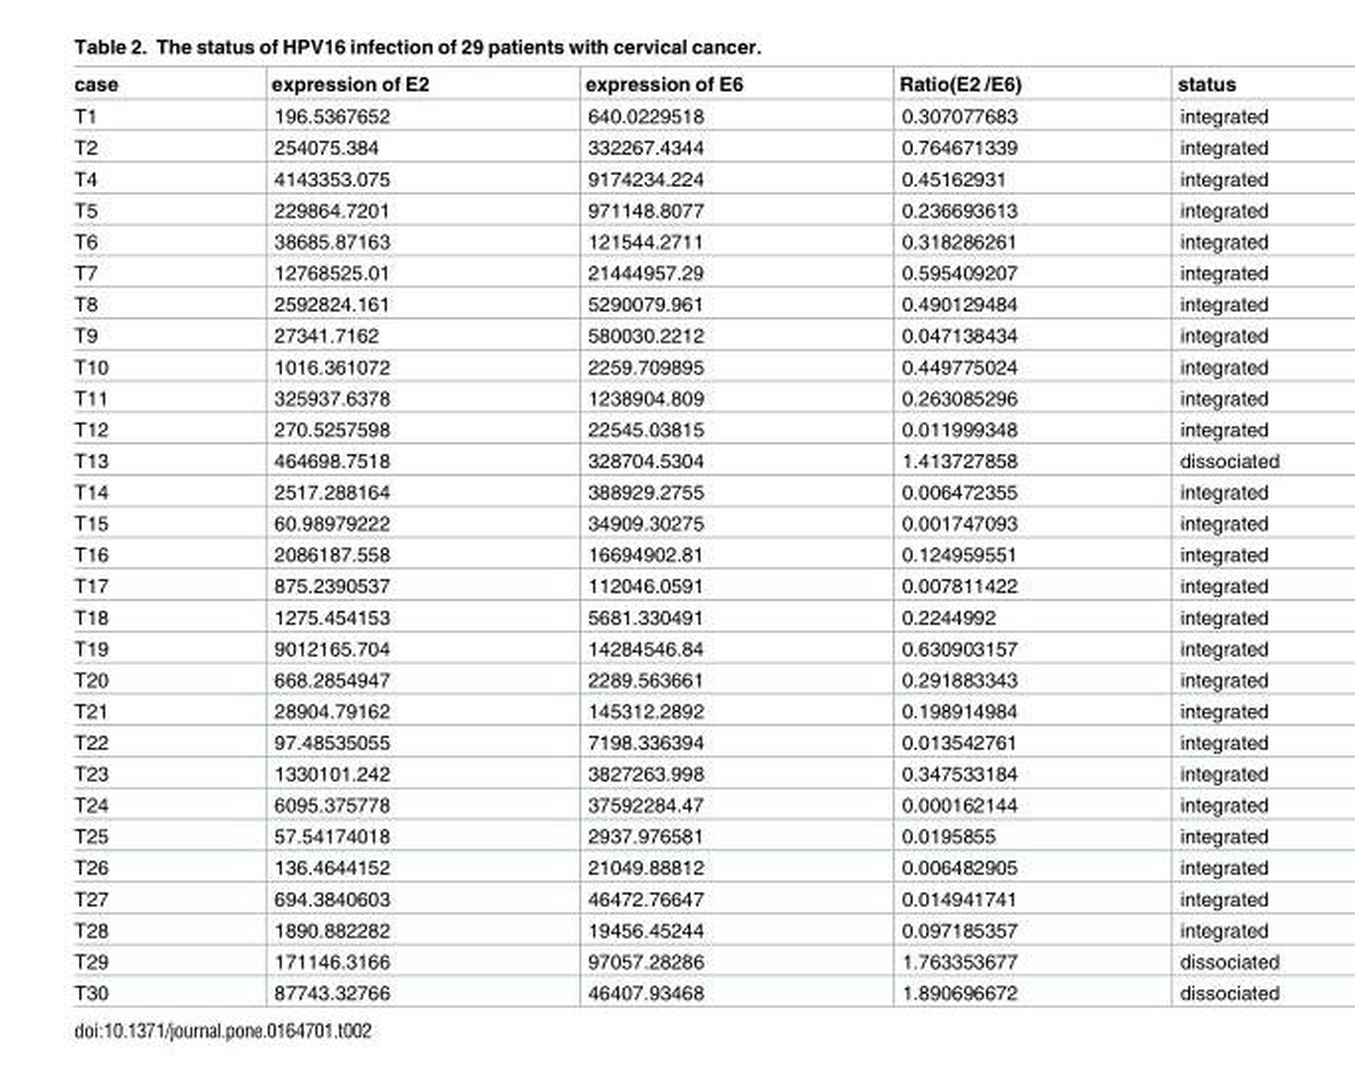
<table><thead><tr><td>case</td><td>expression of E2</td><td>expression of E6</td><td>Ratio(E2 /E6)</td><td>status</td></tr></thead><tbody><tr><td>T1</td><td>196.5367652</td><td>640.0229518</td><td>0.307077683</td><td>integrated</td></tr><tr><td>T2</td><td>254075.384</td><td>332267.4344</td><td>0.764671339</td><td>integrated</td></tr><tr><td>T4</td><td>4143353.075</td><td>9174234.224</td><td>0.45162931</td><td>integrated</td></tr><tr><td>T5</td><td>229864.7201</td><td>971148.8077</td><td>0.236693613</td><td>integrated</td></tr><tr><td>T6</td><td>38685.87163</td><td>121544.2711</td><td>0.318286261</td><td>integrated</td></tr><tr><td>T7</td><td>12768525.01</td><td>21444957.29</td><td>0.595409207</td><td>integrated</td></tr><tr><td>T8</td><td>2592824.161</td><td>5290079.961</td><td>0.490129484</td><td>integrated</td></tr><tr><td>T9</td><td>27341.7162</td><td>580030.2212</td><td>0.047138434</td><td>integrated</td></tr><tr><td>T10</td><td>1016.361072</td><td>2259.709895</td><td>0.449775024</td><td>integrated</td></tr><tr><td>T11</td><td>325937.6378</td><td>1238904.809</td><td>0.263085296</td><td>integrated</td></tr><tr><td>T12</td><td>270.5257598</td><td>22545.03815</td><td>0.011999348</td><td>integrated</td></tr><tr><td>T13</td><td>464698.7518</td><td>328704.5304</td><td>1.413727858</td><td>dissociated</td></tr><tr><td>T14</td><td>2517.288164</td><td>388929.2755</td><td>0.006472355</td><td>integrated</td></tr><tr><td>T15</td><td>60.98979222</td><td>34909.30275</td><td>0.001747093</td><td>integrated</td></tr><tr><td>T16</td><td>2086187.558</td><td>16694902.81</td><td>0.124959551</td><td>integrated</td></tr><tr><td>T17</td><td>875.2390537</td><td>112046.0591</td><td>0.007811422</td><td>integrated</td></tr><tr><td>T18</td><td>1275.454153</td><td>5681.330491</td><td>0.2244992</td><td>integrated</td></tr><tr><td>T19</td><td>9012165.704</td><td>14284546.84</td><td>0.630903157</td><td>integrated</td></tr><tr><td>T20</td><td>668.2854947</td><td>2289.563661</td><td>0.291883343</td><td>integrated</td></tr><tr><td>T21</td><td>28904.79162</td><td>145312.2892</td><td>0.198914984</td><td>integrated</td></tr><tr><td>T22</td><td>97.48535055</td><td>7198.336394</td><td>0.013542761</td><td>integrated</td></tr><tr><td>T23</td><td>1330101.242</td><td>3827263.998</td><td>0.347533184</td><td>integrated</td></tr><tr><td>T24</td><td>6095.375778</td><td>37592284.47</td><td>0.000162144</td><td>integrated</td></tr><tr><td>T25</td><td>57.54174018</td><td>2937.976581</td><td>0.0195855</td><td>integrated</td></tr><tr><td>T26</td><td>136.4644152</td><td>21049.88812</td><td>0.006482905</td><td>integrated</td></tr><tr><td>T27</td><td>694.3840603</td><td>46472.76647</td><td>0.014941741</td><td>integrated</td></tr><tr><td>T28</td><td>1890.882282</td><td>19456.45244</td><td>0.097185357</td><td>integrated</td></tr><tr><td>T29</td><td>171146.3166</td><td>97057.28286</td><td>1.763353677</td><td>dissociated</td></tr><tr><td>T30</td><td>87743.32766</td><td>46407.93468</td><td>1.890696672</td><td>dissociated</td></tr></tbody></table>